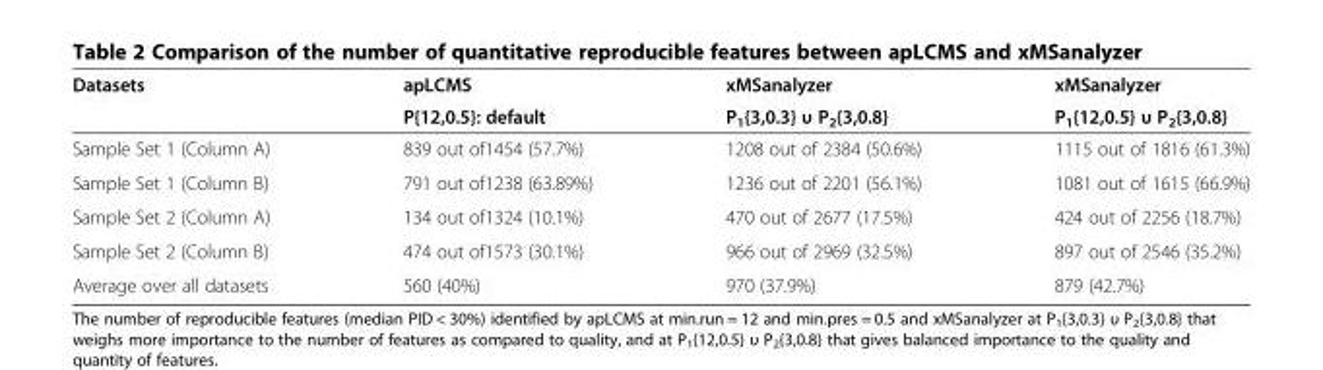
<table><thead><tr><td rowspan="2">Datasets</td><td rowspan="2">apLCMS P{12,0.5}: default</td><td rowspan="2">xMSanalyzer P<sub>1</sub>{3,0.3} υ P<sub>2</sub>{3,0.8}</td><td rowspan="2">xMSanalyzer P<sub>1</sub>{12,0.5} υ P<sub>2</sub>{3,0.8}</td></tr><tr></tr></thead><tbody><tr><td>Sample Set 1 (Column A)</td><td>839 out of1454 (57.7%)</td><td>1208 out of 2384 (50.6%)</td><td>1115 out of 1816 (61.3%)</td></tr><tr><td>Sample Set 1 (Column B)</td><td>791 out of1238 (63.89%)</td><td>1236 out of 2201 (56.1%)</td><td>1081 out of 1615 (66.9%)</td></tr><tr><td>Sample Set 2 (Column A)</td><td>134 out of1324 (10.1%)</td><td>470 out of 2677 (17.5%)</td><td>424 out of 2256 (18.7%)</td></tr><tr><td>Sample Set 2 (Column B)</td><td>474 out of1573 (30.1%)</td><td>966 out of 2969 (32.5%)</td><td>897 out of 2546 (35.2%)</td></tr><tr><td>Average over all datasets</td><td>560 (40%)</td><td>970 (37.9%)</td><td>879 (42.7%)</td></tr></tbody></table>